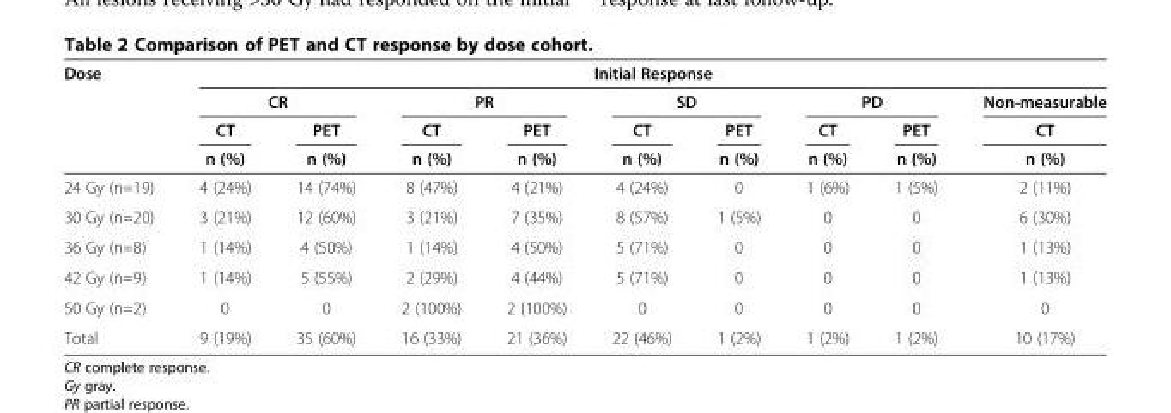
<table><thead><tr><td rowspan="4">Dose</td><td colspan="9">Initial Response</td></tr><tr><td colspan="2">CR</td><td colspan="2">PR</td><td colspan="2">SD</td><td colspan="2">PD</td><td rowspan="3">Non-measurable CT n (%)</td></tr><tr><td rowspan="2">CT n (%)</td><td rowspan="2">PET n (%)</td><td rowspan="2">CT n (%)</td><td rowspan="2">PET n (%)</td><td rowspan="2">CT n (%)</td><td rowspan="2">PET n (%)</td><td rowspan="2">CT n (%)</td><td rowspan="2">PET n (%)</td></tr><tr></tr></thead><tbody><tr><td>24 Gy (n=19)</td><td>4 (24%)</td><td>14 (74%)</td><td>8 (47%)</td><td>4 (21%)</td><td>4 (24%)</td><td>0</td><td>1 (6%)</td><td>1 (5%)</td><td>2 (11%)</td></tr><tr><td>30 Gy (n=20)</td><td>3 (21%)</td><td>12 (60%)</td><td>3 (21%)</td><td>7 (35%)</td><td>8 (57%)</td><td>1 (5%)</td><td>0</td><td>0</td><td>6 (30%)</td></tr><tr><td>36 Gy (n=8)</td><td>1 (14%)</td><td>4 (50%)</td><td>1 (14%)</td><td>4 (50%)</td><td>5 (71%)</td><td>0</td><td>0</td><td>0</td><td>1 (13%)</td></tr><tr><td>42 Gy (n=9)</td><td>1 (14%)</td><td>5 (55%)</td><td>2 (29%)</td><td>4 (44%)</td><td>5 (71%)</td><td>0</td><td>0</td><td>0</td><td>1 (13%)</td></tr><tr><td>50 Gy (n=2)</td><td>0</td><td>0</td><td>2 (100%)</td><td>2 (100%)</td><td>0</td><td>0</td><td>0</td><td>0</td><td>0</td></tr><tr><td>Total</td><td>9 (19%)</td><td>35 (60%)</td><td>16 (33%)</td><td>21 (36%)</td><td>22 (46%)</td><td>1 (2%)</td><td>1 (2%)</td><td>1 (2%)</td><td>10 (17%)</td></tr></tbody></table>